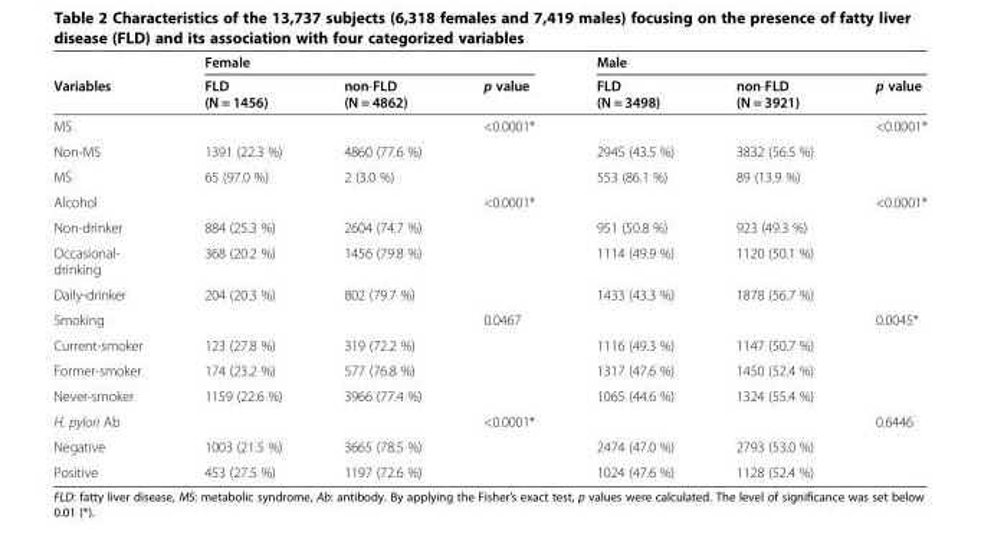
<table><thead><tr><td rowspan="2">Variables</td><td colspan="3">Female</td><td colspan="3">Male</td></tr><tr><td>FLD (N = 1456)</td><td>non-FLD (N = 4862)</td><td>p value</td><td>FLD (N = 3498)</td><td>non-FLD (N = 3921)</td><td>p value</td></tr></thead><tbody><tr><td>MS</td><td></td><td></td><td>&lt;0.0001*</td><td></td><td></td><td>&lt;0.0001*</td></tr><tr><td>Non-MS</td><td>1391 (22.3 %)</td><td>4860 (77.6 %)</td><td></td><td>2945 (43.5 %)</td><td>3832 (56.5 %)</td><td></td></tr><tr><td>MS</td><td>65 (97.0 %)</td><td>2 (3.0 %)</td><td></td><td>553 (86.1 %)</td><td>89 (13.9 %)</td><td></td></tr><tr><td>Alcohol</td><td></td><td></td><td>&lt;0.0001*</td><td></td><td></td><td>&lt;0.0001*</td></tr><tr><td>Non-drinker</td><td>884 (25.3 %)</td><td>2604 (74.7 %)</td><td></td><td>951 (50.8 %)</td><td>923 (49.3 %)</td><td></td></tr><tr><td>Occasional- drinking</td><td>368 (20.2 %)</td><td>1456 (79.8 %)</td><td></td><td>1114 (49.9 %)</td><td>1120 (50.1 %)</td><td></td></tr><tr><td>Daily-drinker</td><td>204 (20.3 %)</td><td>802 (79.7 %)</td><td></td><td>1433 (43.3 %)</td><td>1878 (56.7 %)</td><td></td></tr><tr><td>Smoking</td><td></td><td></td><td>0.0467</td><td></td><td></td><td>0.0045*</td></tr><tr><td>Current-smoker</td><td>123 (27.8 %)</td><td>319 (72.2 %)</td><td></td><td>1116 (49.3 %)</td><td>1147 (50.7 %)</td><td></td></tr><tr><td>Former-smoker</td><td>174 (23.2 %)</td><td>577 (76.8 %)</td><td></td><td>1317 (47.6 %)</td><td>1450 (52.4 %)</td><td></td></tr><tr><td>Never-smoker</td><td>1159 (22.6 %)</td><td>3966 (77.4 %)</td><td></td><td>1065 (44.6 %)</td><td>1324 (55.4 %)</td><td></td></tr><tr><td>H. pylori Ab</td><td></td><td></td><td>&lt;0.0001*</td><td></td><td></td><td>0.6446</td></tr><tr><td>Negative</td><td>1003 (21.5 %)</td><td>3665 (78.5 %)</td><td></td><td>2474 (47.0 %)</td><td>2793 (53.0 %)</td><td></td></tr><tr><td>Positive</td><td>453 (27.5 %)</td><td>1197 (72.6 %)</td><td></td><td>1024 (47.6 %)</td><td>1128 (52.4 %)</td><td></td></tr></tbody></table>